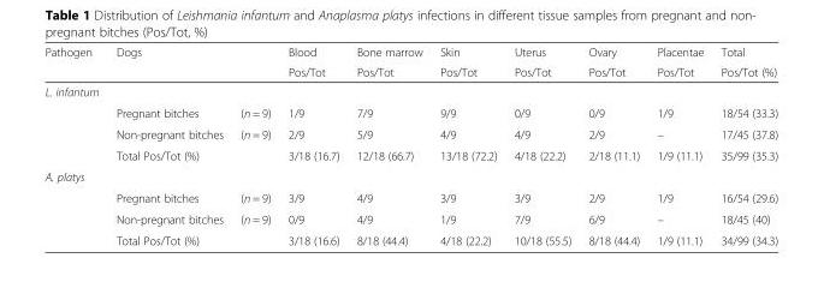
<table><thead><tr><td rowspan="3">Pathogen L. infantum</td><td rowspan="2" colspan="2">Dogs</td><td rowspan="3">Blood Pos/Tot</td><td rowspan="3">Bone marrow Pos/Tot</td><td rowspan="3">Skin Pos/Tot</td><td rowspan="3">Uterus Pos/Tot</td><td rowspan="3">Ovary Pos/Tot</td><td rowspan="3">Placentae Pos/Tot</td><td rowspan="3">Total Pos/Tot (%)</td></tr><tr></tr><tr><td></td><td></td></tr></thead><tbody><tr><td></td><td>Pregnant bitches</td><td>(n = 9)</td><td>1/9</td><td>7/9</td><td>9/9</td><td>0/9</td><td>0/9</td><td>1/9</td><td>18/54 (33.3)</td></tr><tr><td></td><td>Non-pregnant bitches</td><td>(n = 9)</td><td>2/9</td><td>5/9</td><td>4/9</td><td>4/9</td><td>2/9</td><td>–</td><td>17/45 (37.8)</td></tr><tr><td></td><td>Total Pos/Tot (%)</td><td></td><td>3/18 (16.7)</td><td>12/18 (66.7)</td><td>13/18 (72.2)</td><td>4/18 (22.2)</td><td>2/18 (11.1)</td><td>1/9 (11.1)</td><td>35/99 (35.3)</td></tr><tr><td colspan="10">A. platys</td></tr><tr><td></td><td>Pregnant bitches</td><td>(n = 9)</td><td>3/9</td><td>4/9</td><td>3/9</td><td>3/9</td><td>2/9</td><td>1/9</td><td>16/54 (29.6)</td></tr><tr><td></td><td>Non-pregnant bitches</td><td>(n = 9)</td><td>0/9</td><td>4/9</td><td>1/9</td><td>7/9</td><td>6/9</td><td>–</td><td>18/45 (40)</td></tr><tr><td></td><td>Total Pos/Tot (%)</td><td></td><td>3/18 (16.6)</td><td>8/18 (44.4)</td><td>4/18 (22.2)</td><td>10/18 (55.5)</td><td>8/18 (44.4)</td><td>1/9 (11.1)</td><td>34/99 (34.3)</td></tr></tbody></table>